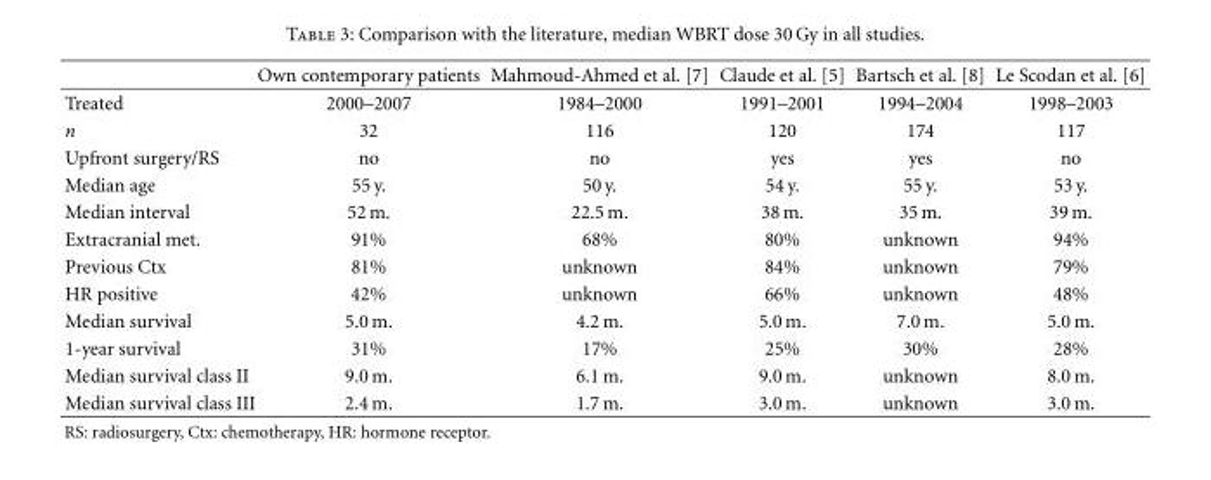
<table><thead><tr><td></td><td>Own contemporary patients</td><td>Mahmoud-Ahmed et al. [7]</td><td>Claude et al. [5]</td><td>Bartsch et al. [8]</td><td>Le Scodan et al. [6]</td></tr></thead><tbody><tr><td>Treated</td><td>2000–2007</td><td>1984–2000</td><td>1991–2001</td><td>1994–2004</td><td>1998–2003</td></tr><tr><td>n</td><td>32</td><td>116</td><td>120</td><td>174</td><td>117</td></tr><tr><td>Upfront surgery/RS</td><td>no</td><td>no</td><td>yes</td><td>yes</td><td>no</td></tr><tr><td>Median age</td><td>55 y.</td><td>50 y.</td><td>54 y.</td><td>55 y.</td><td>53 y.</td></tr><tr><td>Median interval</td><td>52 m.</td><td>22.5 m.</td><td>38 m.</td><td>35 m.</td><td>39 m.</td></tr><tr><td>Extracranial met.</td><td>91%</td><td>68%</td><td>80%</td><td>unknown</td><td>94%</td></tr><tr><td>Previous Ctx</td><td>81%</td><td>unknown</td><td>84%</td><td>unknown</td><td>79%</td></tr><tr><td>HR positive</td><td>42%</td><td>unknown</td><td>66%</td><td>unknown</td><td>48%</td></tr><tr><td>Median survival</td><td>5.0 m.</td><td>4.2 m.</td><td>5.0 m.</td><td>7.0 m.</td><td>5.0 m.</td></tr><tr><td>1-year survival</td><td>31%</td><td>17%</td><td>25%</td><td>30%</td><td>28%</td></tr><tr><td>Median survival class II</td><td>9.0 m.</td><td>6.1 m.</td><td>9.0 m.</td><td>unknown</td><td>8.0 m.</td></tr><tr><td>Median survival class III</td><td>2.4 m.</td><td>1.7 m.</td><td>3.0 m.</td><td>unknown</td><td>3.0 m.</td></tr></tbody></table>